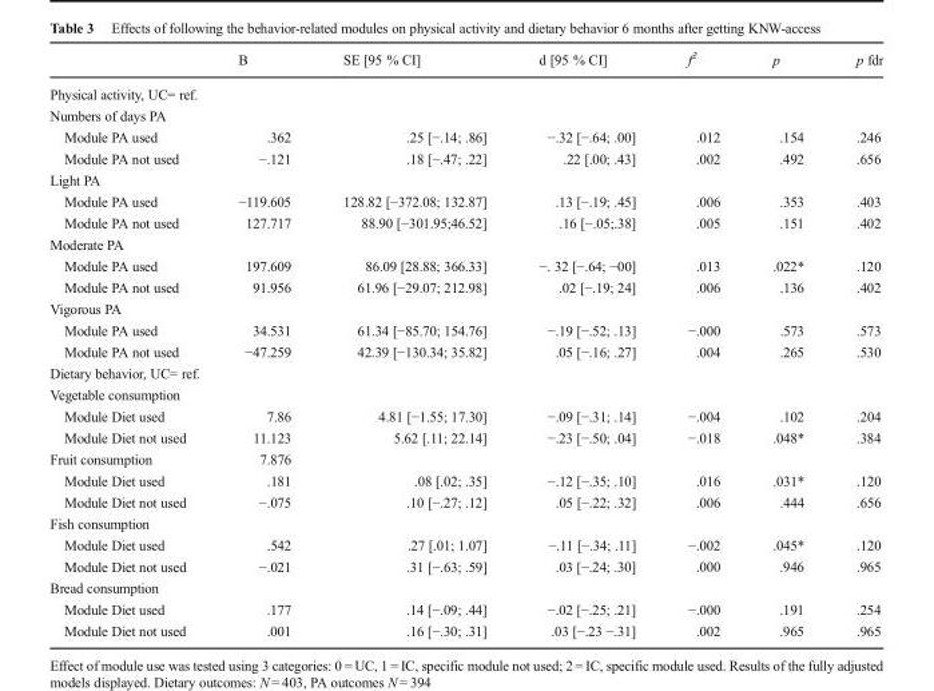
<table><thead><tr><td></td><td>B</td><td>SE [95 % CI]</td><td>d [95 % CI]</td><td>f<sup>2</sup></td><td>p</td><td>p fdr</td></tr></thead><tbody><tr><td colspan="7">Physical activity, UC= ref.</td></tr><tr><td colspan="7">Numbers of days PA</td></tr><tr><td>Module PA used</td><td>.362</td><td>.25 [−.14; .86]</td><td>−.32 [−.64; .00]</td><td>.012</td><td>.154</td><td>.246</td></tr><tr><td>Module PA not used</td><td>−.121</td><td>.18 [−.47; .22]</td><td>.22 [.00; .43]</td><td>.002</td><td>.492</td><td>.656</td></tr><tr><td colspan="7">Light PA</td></tr><tr><td>Module PA used</td><td>−119.605</td><td>128.82 [−372.08; 132.87]</td><td>.13 [−.19; .45]</td><td>.006</td><td>.353</td><td>.403</td></tr><tr><td>Module PA not used</td><td>127.717</td><td>88.90 [−301.95;46.52]</td><td>.16 [−.05;.38]</td><td>.005</td><td>.151</td><td>.402</td></tr><tr><td colspan="7">Moderate PA</td></tr><tr><td>Module PA used</td><td>197.609</td><td>86.09 [28.88; 366.33]</td><td>−. 32 [−.64; −00]</td><td>.013</td><td>.022*</td><td>.120</td></tr><tr><td>Module PA not used</td><td>91.956</td><td>61.96 [−29.07; 212.98]</td><td>.02 [−.19; 24]</td><td>.006</td><td>.136</td><td>.402</td></tr><tr><td colspan="7">Vigorous PA</td></tr><tr><td>Module PA used</td><td>34.531</td><td>61.34 [−85.70; 154.76]</td><td>−.19 [−.52; .13]</td><td>−.000</td><td>.573</td><td>.573</td></tr><tr><td>Module PA not used</td><td>−47.259</td><td>42.39 [−130.34; 35.82]</td><td>.05 [−.16; .27]</td><td>.004</td><td>.265</td><td>.530</td></tr><tr><td colspan="7">Dietary behavior, UC= ref.</td></tr><tr><td colspan="7">Vegetable consumption</td></tr><tr><td>Module Diet used</td><td>7.86</td><td>4.81 [−1.55; 17.30]</td><td>−.09 [−.31; .14]</td><td>−.004</td><td>.102</td><td>.204</td></tr><tr><td>Module Diet not used</td><td>11.123</td><td>5.62 [.11; 22.14]</td><td>−.23 [−.50; .04]</td><td>−.018</td><td>.048*</td><td>.384</td></tr><tr><td>Fruit consumption</td><td>7.876</td><td></td><td></td><td></td><td></td><td></td></tr><tr><td>Module Diet used</td><td>.181</td><td>.08 [.02; .35]</td><td>−.12 [−.35; .10]</td><td>.016</td><td>.031*</td><td>.120</td></tr><tr><td>Module Diet not used</td><td>−.075</td><td>.10 [−.27; .12]</td><td>.05 [−.22; .32]</td><td>.006</td><td>.444</td><td>.656</td></tr><tr><td colspan="7">Fish consumption</td></tr><tr><td>Module Diet used</td><td>.542</td><td>.27 [.01; 1.07]</td><td>−.11 [−.34; .11]</td><td>−.002</td><td>.045*</td><td>.120</td></tr><tr><td>Module Diet not used</td><td>−.021</td><td>.31 [−.63; .59]</td><td>.03 [−.24; .30]</td><td>.000</td><td>.946</td><td>.965</td></tr><tr><td colspan="7">Bread consumption</td></tr><tr><td>Module Diet used</td><td>.177</td><td>.14 [−.09; .44]</td><td>−.02 [−.25; .21]</td><td>−.000</td><td>.191</td><td>.254</td></tr><tr><td>Module Diet not used</td><td>.001</td><td>.16 [−.30; .31]</td><td>.03 [−.23 −.31]</td><td>.002</td><td>.965</td><td>.965</td></tr></tbody></table>